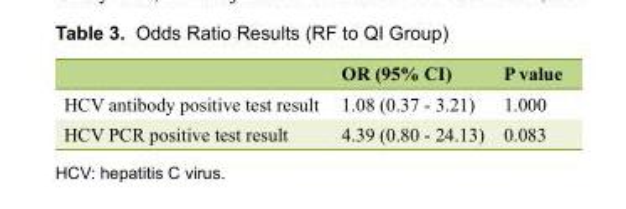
<table><thead><tr><td></td><td>OR (95% CI)</td><td>P value</td></tr></thead><tbody><tr><td>HCV antibody positive test result</td><td>1.08 (0.37 - 3.21)</td><td>1.000</td></tr><tr><td>HCV PCR positive test result</td><td>4.39 (0.80 - 24.13)</td><td>0.083</td></tr></tbody></table>